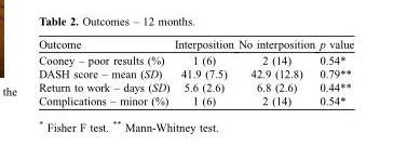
<table><thead><tr><td>Outcome</td><td>Interposition</td><td>No interposition</td><td>p value</td></tr></thead><tbody><tr><td>Cooney – poor results (%)</td><td>1 (6)</td><td>2 (14)</td><td>0.54*</td></tr><tr><td>DASH score – mean (SD)</td><td>41.9 (7.5)</td><td>42.9 (12.8)</td><td>0.79**</td></tr><tr><td>Return to work – days (SD)</td><td>5.6 (2.6)</td><td>6.8 (2.6)</td><td>0.44**</td></tr><tr><td>Complications – minor (%)</td><td>1 (6)</td><td>2 (14)</td><td>0.54*</td></tr></tbody></table>